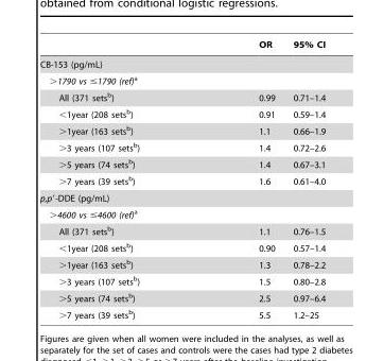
<table><thead><tr><td></td><td>OR</td><td>95% CI</td></tr></thead><tbody><tr><td colspan="3">CB-153 (pg/mL)</td></tr><tr><td colspan="3">&gt;1790 vs ≤1790 (ref)a</td></tr><tr><td>All (371 sets<sup>b</sup>)</td><td>0.99</td><td>0.71–1.4</td></tr><tr><td>&lt;1year (208 sets<sup>b</sup>)</td><td>0.91</td><td>0.59–1.4</td></tr><tr><td>&gt;1year (163 sets<sup>b</sup>)</td><td>1.1</td><td>0.66–1.9</td></tr><tr><td>&gt;3 years (107 sets<sup>b</sup>)</td><td>1.4</td><td>0.72–2.6</td></tr><tr><td>&gt;5 years (74 sets<sup>b</sup>)</td><td>1.4</td><td>0.67–3.1</td></tr><tr><td>&gt;7 years (39 sets<sup>b</sup>)</td><td>1.6</td><td>0.61–4.0</td></tr><tr><td colspan="3">p,p′-DDE (pg/mL)</td></tr><tr><td colspan="3">&gt;4600 vs ≤4600 (ref)a</td></tr><tr><td>All (371 sets<sup>b</sup>)</td><td>1.1</td><td>0.76–1.5</td></tr><tr><td>&lt;1year (208 sets<sup>b</sup>)</td><td>0.90</td><td>0.57–1.4</td></tr><tr><td>&gt;1year (163 sets<sup>b</sup>)</td><td>1.3</td><td>0.78–2.2</td></tr><tr><td>&gt;3 years (107 sets<sup>b</sup>)</td><td>1.5</td><td>0.80–2.8</td></tr><tr><td>&gt;5 years (74 sets<sup>b</sup>)</td><td>2.5</td><td>0.97–6.4</td></tr><tr><td>&gt;7 years (39 sets<sup>b</sup>)</td><td>5.5</td><td>1.2–25</td></tr></tbody></table>